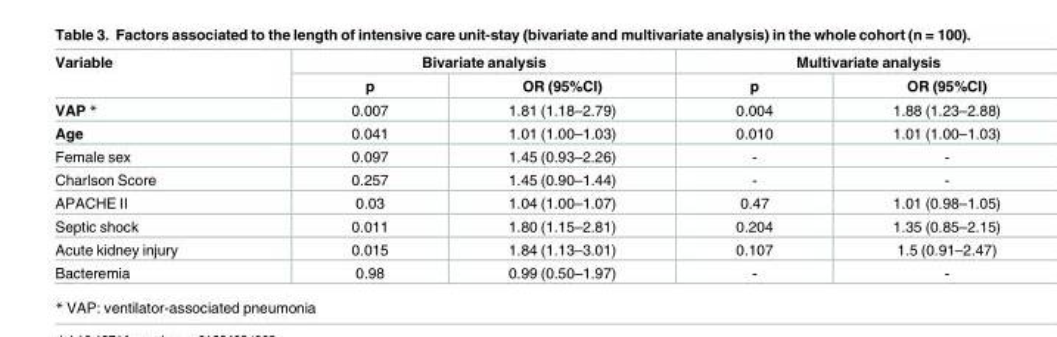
<table><thead><tr><td rowspan="2">Variable</td><td colspan="2">Bivariate analysis</td><td colspan="2">Multivariate analysis</td></tr><tr><td>p</td><td>OR (95%CI)</td><td>p</td><td>OR (95%CI)</td></tr></thead><tbody><tr><td>VAP *</td><td>0.007</td><td>1.81 (1.18–2.79)</td><td>0.004</td><td>1.88 (1.23–2.88)</td></tr><tr><td>Age</td><td>0.041</td><td>1.01 (1.00–1.03)</td><td>0.010</td><td>1.01 (1.00–1.03)</td></tr><tr><td>Female sex</td><td>0.097</td><td>1.45 (0.93–2.26)</td><td>-</td><td>-</td></tr><tr><td>Charlson Score</td><td>0.257</td><td>1.45 (0.90–1.44)</td><td>-</td><td>-</td></tr><tr><td>APACHE II</td><td>0.03</td><td>1.04 (1.00–1.07)</td><td>0.47</td><td>1.01 (0.98–1.05)</td></tr><tr><td>Septic shock</td><td>0.011</td><td>1.80 (1.15–2.81)</td><td>0.204</td><td>1.35 (0.85–2.15)</td></tr><tr><td>Acute kidney injury</td><td>0.015</td><td>1.84 (1.13–3.01)</td><td>0.107</td><td>1.5 (0.91–2.47)</td></tr><tr><td>Bacteremia</td><td>0.98</td><td>0.99 (0.50–1.97)</td><td>-</td><td>-</td></tr></tbody></table>